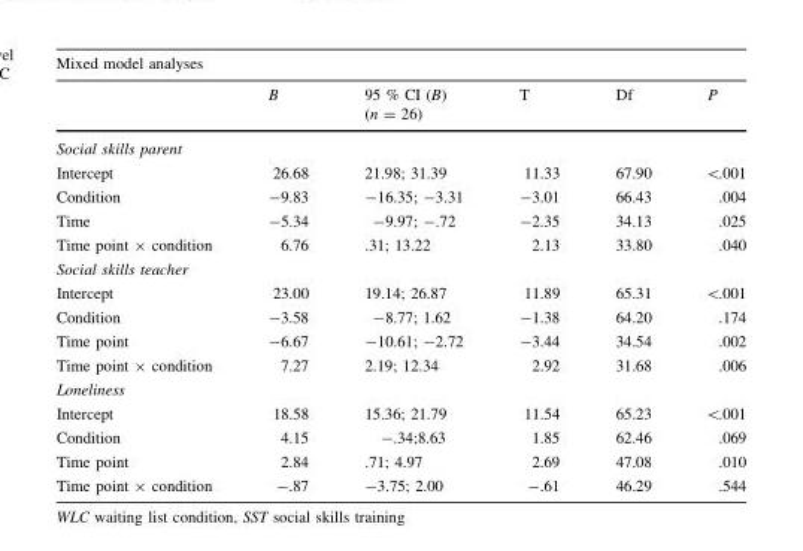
<table><thead><tr><td colspan="6">Mixed model analyses</td></tr><tr><td></td><td>B</td><td>95 % CI (B) (n = 26)</td><td>T</td><td>Df</td><td>P</td></tr></thead><tbody><tr><td colspan="6">Social skills parent</td></tr><tr><td>Intercept</td><td>26.68</td><td>21.98; 31.39</td><td>11.33</td><td>67.90</td><td>&lt;.001</td></tr><tr><td>Condition</td><td>-9.83</td><td>-16.35; -3.31</td><td>-3.01</td><td>66.43</td><td>.004</td></tr><tr><td>Time</td><td>-5.34</td><td>-9.97; -.72</td><td>-2.35</td><td>34.13</td><td>.025</td></tr><tr><td>Time point × condition</td><td>6.76</td><td>.31; 13.22</td><td>2.13</td><td>33.80</td><td>.040</td></tr><tr><td colspan="6">Social skills teacher</td></tr><tr><td>Intercept</td><td>23.00</td><td>19.14; 26.87</td><td>11.89</td><td>65.31</td><td>&lt;.001</td></tr><tr><td>Condition</td><td>-3.58</td><td>-8.77; 1.62</td><td>-1.38</td><td>64.20</td><td>.174</td></tr><tr><td>Time point</td><td>-6.67</td><td>-10.61; -2.72</td><td>-3.44</td><td>34.54</td><td>.002</td></tr><tr><td>Time point × condition</td><td>7.27</td><td>2.19; 12.34</td><td>2.92</td><td>31.68</td><td>.006</td></tr><tr><td colspan="6">Loneliness</td></tr><tr><td>Intercept</td><td>18.58</td><td>15.36; 21.79</td><td>11.54</td><td>65.23</td><td>&lt;.001</td></tr><tr><td>Condition</td><td>4.15</td><td>-.34;8.63</td><td>1.85</td><td>62.46</td><td>.069</td></tr><tr><td>Time point</td><td>2.84</td><td>.71; 4.97</td><td>2.69</td><td>47.08</td><td>.010</td></tr><tr><td>Time point × condition</td><td>-.87</td><td>-3.75; 2.00</td><td>-.61</td><td>46.29</td><td>.544</td></tr></tbody></table>